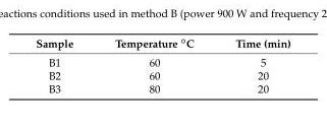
<table><thead><tr><td>Sample</td><td>Temperature ◦C</td><td>Time (min)</td></tr></thead><tbody><tr><td>B1</td><td>60</td><td>5</td></tr><tr><td>B2</td><td>60</td><td>20</td></tr><tr><td>B3</td><td>80</td><td>20</td></tr></tbody></table>